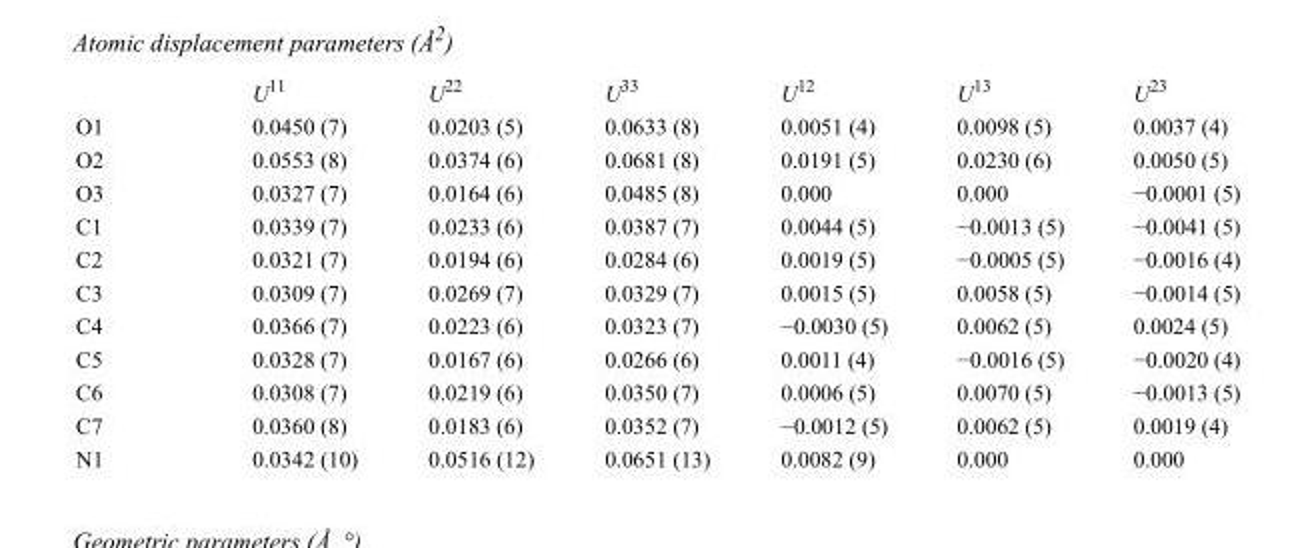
<table><thead><tr><td></td><td>U<sup>11</sup></td><td>U<sup>22</sup></td><td>U<sup>33</sup></td><td>U<sup>12</sup></td><td>U<sup>13</sup></td><td>U<sup>23</sup></td></tr></thead><tbody><tr><td>O1</td><td>0.0450 (7)</td><td>0.0203 (5)</td><td>0.0633 (8)</td><td>0.0051 (4)</td><td>0.0098 (5)</td><td>0.0037 (4)</td></tr><tr><td>O2</td><td>0.0553 (8)</td><td>0.0374 (6)</td><td>0.0681 (8)</td><td>0.0191 (5)</td><td>0.0230 (6)</td><td>0.0050 (5)</td></tr><tr><td>O3</td><td>0.0327 (7)</td><td>0.0164 (6)</td><td>0.0485 (8)</td><td>0.000</td><td>0.000</td><td>−0.0001 (5)</td></tr><tr><td>C1</td><td>0.0339 (7)</td><td>0.0233 (6)</td><td>0.0387 (7)</td><td>0.0044 (5)</td><td>−0.0013 (5)</td><td>−0.0041 (5)</td></tr><tr><td>C2</td><td>0.0321 (7)</td><td>0.0194 (6)</td><td>0.0284 (6)</td><td>0.0019 (5)</td><td>−0.0005 (5)</td><td>−0.0016 (4)</td></tr><tr><td>C3</td><td>0.0309 (7)</td><td>0.0269 (7)</td><td>0.0329 (7)</td><td>0.0015 (5)</td><td>0.0058 (5)</td><td>−0.0014 (5)</td></tr><tr><td>C4</td><td>0.0366 (7)</td><td>0.0223 (6)</td><td>0.0323 (7)</td><td>−0.0030 (5)</td><td>0.0062 (5)</td><td>0.0024 (5)</td></tr><tr><td>C5</td><td>0.0328 (7)</td><td>0.0167 (6)</td><td>0.0266 (6)</td><td>0.0011 (4)</td><td>−0.0016 (5)</td><td>−0.0020 (4)</td></tr><tr><td>C6</td><td>0.0308 (7)</td><td>0.0219 (6)</td><td>0.0350 (7)</td><td>0.0006 (5)</td><td>0.0070 (5)</td><td>−0.0013 (5)</td></tr><tr><td>C7</td><td>0.0360 (8)</td><td>0.0183 (6)</td><td>0.0352 (7)</td><td>−0.0012 (5)</td><td>0.0062 (5)</td><td>0.0019 (4)</td></tr><tr><td>N1</td><td>0.0342 (10)</td><td>0.0516 (12)</td><td>0.0651 (13)</td><td>0.0082 (9)</td><td>0.000</td><td>0.000</td></tr></tbody></table>